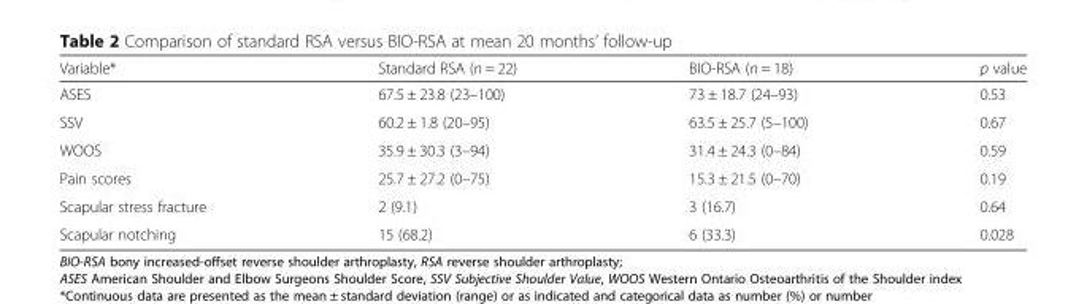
<table><thead><tr><td>Variable*</td><td>Standard RSA (n = 22)</td><td>BIO-RSA (n = 18)</td><td>p value</td></tr></thead><tbody><tr><td>ASES</td><td>67.5 ± 23.8 (23–100)</td><td>73 ± 18.7 (24–93)</td><td>0.53</td></tr><tr><td>SSV</td><td>60.2 ± 1.8 (20–95)</td><td>63.5 ± 25.7 (5–100)</td><td>0.67</td></tr><tr><td>WOOS</td><td>35.9 ± 30.3 (3–94)</td><td>31.4 ± 24.3 (0–84)</td><td>0.59</td></tr><tr><td>Pain scores</td><td>25.7 ± 27.2 (0–75)</td><td>15.3 ± 21.5 (0–70)</td><td>0.19</td></tr><tr><td>Scapular stress fracture</td><td>2 (9.1)</td><td>3 (16.7)</td><td>0.64</td></tr><tr><td>Scapular notching</td><td>15 (68.2)</td><td>6 (33.3)</td><td>0.028</td></tr></tbody></table>